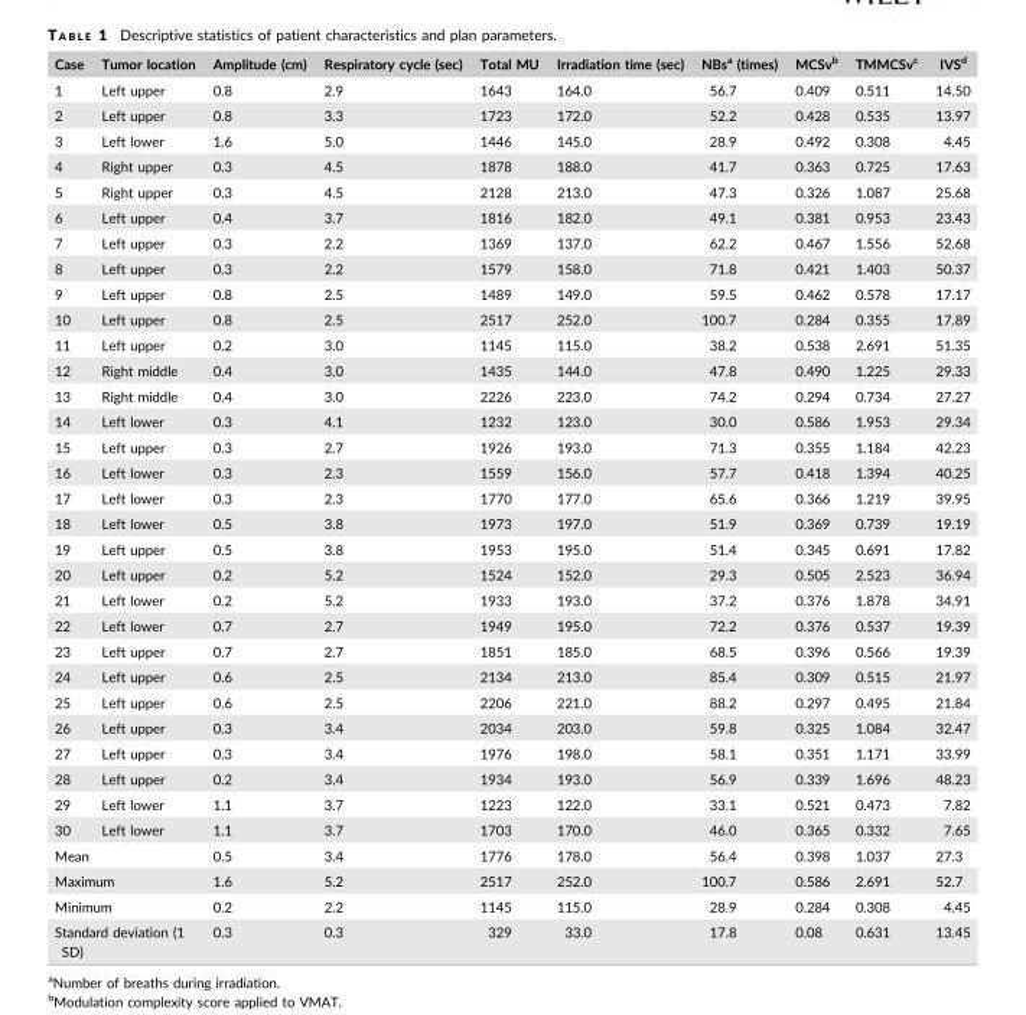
<table><thead><tr><td>Case</td><td>Tumor location</td><td>Amplitude (cm)</td><td>Respiratory cycle (sec)</td><td>Total MU</td><td>Irradiation time (sec)</td><td>NBs<sup>a</sup> (times)</td><td>MCSv<sup>b</sup></td><td>TMMCSv<sup>c</sup></td><td>IVS<sup>d</sup></td></tr></thead><tbody><tr><td>1</td><td>Left upper</td><td>0.8</td><td>2.9</td><td>1643</td><td>164.0</td><td>56.7</td><td>0.409</td><td>0.511</td><td>14.50</td></tr><tr><td>2</td><td>Left upper</td><td>0.8</td><td>3.3</td><td>1723</td><td>172.0</td><td>52.2</td><td>0.428</td><td>0.535</td><td>13.97</td></tr><tr><td>3</td><td>Left lower</td><td>1.6</td><td>5.0</td><td>1446</td><td>145.0</td><td>28.9</td><td>0.492</td><td>0.308</td><td>4.45</td></tr><tr><td>4</td><td>Right upper</td><td>0.3</td><td>4.5</td><td>1878</td><td>188.0</td><td>41.7</td><td>0.363</td><td>0.725</td><td>17.63</td></tr><tr><td>5</td><td>Right upper</td><td>0.3</td><td>4.5</td><td>2128</td><td>213.0</td><td>47.3</td><td>0.326</td><td>1.087</td><td>25.68</td></tr><tr><td>6</td><td>Left upper</td><td>0.4</td><td>3.7</td><td>1816</td><td>182.0</td><td>49.1</td><td>0.381</td><td>0.953</td><td>23.43</td></tr><tr><td>7</td><td>Left upper</td><td>0.3</td><td>2.2</td><td>1369</td><td>137.0</td><td>62.2</td><td>0.467</td><td>1.556</td><td>52.68</td></tr><tr><td>8</td><td>Left upper</td><td>0.3</td><td>2.2</td><td>1579</td><td>158.0</td><td>71.8</td><td>0.421</td><td>1.403</td><td>50.37</td></tr><tr><td>9</td><td>Left upper</td><td>0.8</td><td>2.5</td><td>1489</td><td>149.0</td><td>59.5</td><td>0.462</td><td>0.578</td><td>17.17</td></tr><tr><td>10</td><td>Left upper</td><td>0.8</td><td>2.5</td><td>2517</td><td>252.0</td><td>100.7</td><td>0.284</td><td>0.355</td><td>17.89</td></tr><tr><td>11</td><td>Left upper</td><td>0.2</td><td>3.0</td><td>1145</td><td>115.0</td><td>38.2</td><td>0.538</td><td>2.691</td><td>51.35</td></tr><tr><td>12</td><td>Right middle</td><td>0.4</td><td>3.0</td><td>1435</td><td>144.0</td><td>47.8</td><td>0.490</td><td>1.225</td><td>29.33</td></tr><tr><td>13</td><td>Right middle</td><td>0.4</td><td>3.0</td><td>2226</td><td>223.0</td><td>74.2</td><td>0.294</td><td>0.734</td><td>27.27</td></tr><tr><td>14</td><td>Left lower</td><td>0.3</td><td>4.1</td><td>1232</td><td>123.0</td><td>30.0</td><td>0.586</td><td>1.953</td><td>29.34</td></tr><tr><td>15</td><td>Left upper</td><td>0.3</td><td>2.7</td><td>1926</td><td>193.0</td><td>71.3</td><td>0.355</td><td>1.184</td><td>42.23</td></tr><tr><td>16</td><td>Left lower</td><td>0.3</td><td>2.3</td><td>1559</td><td>156.0</td><td>57.7</td><td>0.418</td><td>1.394</td><td>40.25</td></tr><tr><td>17</td><td>Left lower</td><td>0.3</td><td>2.3</td><td>1770</td><td>177.0</td><td>65.6</td><td>0.366</td><td>1.219</td><td>39.95</td></tr><tr><td>18</td><td>Left lower</td><td>0.5</td><td>3.8</td><td>1973</td><td>197.0</td><td>51.9</td><td>0.369</td><td>0.739</td><td>19.19</td></tr><tr><td>19</td><td>Left upper</td><td>0.5</td><td>3.8</td><td>1953</td><td>195.0</td><td>51.4</td><td>0.345</td><td>0.691</td><td>17.82</td></tr><tr><td>20</td><td>Left upper</td><td>0.2</td><td>5.2</td><td>1524</td><td>152.0</td><td>29.3</td><td>0.505</td><td>2.523</td><td>36.94</td></tr><tr><td>21</td><td>Left lower</td><td>0.2</td><td>5.2</td><td>1933</td><td>193.0</td><td>37.2</td><td>0.376</td><td>1.878</td><td>34.91</td></tr><tr><td>22</td><td>Left lower</td><td>0.7</td><td>2.7</td><td>1949</td><td>195.0</td><td>72.2</td><td>0.376</td><td>0.537</td><td>19.39</td></tr><tr><td>23</td><td>Left upper</td><td>0.7</td><td>2.7</td><td>1851</td><td>185.0</td><td>68.5</td><td>0.396</td><td>0.566</td><td>19.39</td></tr><tr><td>24</td><td>Left upper</td><td>0.6</td><td>2.5</td><td>2134</td><td>213.0</td><td>85.4</td><td>0.309</td><td>0.515</td><td>21.97</td></tr><tr><td>25</td><td>Left upper</td><td>0.6</td><td>2.5</td><td>2206</td><td>221.0</td><td>88.2</td><td>0.297</td><td>0.495</td><td>21.84</td></tr><tr><td>26</td><td>Left upper</td><td>0.3</td><td>3.4</td><td>2034</td><td>203.0</td><td>59.8</td><td>0.325</td><td>1.084</td><td>32.47</td></tr><tr><td>27</td><td>Left upper</td><td>0.3</td><td>3.4</td><td>1976</td><td>198.0</td><td>58.1</td><td>0.351</td><td>1.171</td><td>33.99</td></tr><tr><td>28</td><td>Left upper</td><td>0.2</td><td>3.4</td><td>1934</td><td>193.0</td><td>56.9</td><td>0.339</td><td>1.696</td><td>48.23</td></tr><tr><td>29</td><td>Left lower</td><td>1.1</td><td>3.7</td><td>1223</td><td>122.0</td><td>33.1</td><td>0.521</td><td>0.473</td><td>7.82</td></tr><tr><td>30</td><td>Left lower</td><td>1.1</td><td>3.7</td><td>1703</td><td>170.0</td><td>46.0</td><td>0.365</td><td>0.332</td><td>7.65</td></tr><tr><td colspan="2">Mean</td><td>0.5</td><td>3.4</td><td>1776</td><td>178.0</td><td>56.4</td><td>0.398</td><td>1.037</td><td>27.3</td></tr><tr><td colspan="2">Maximum</td><td>1.6</td><td>5.2</td><td>2517</td><td>252.0</td><td>100.7</td><td>0.586</td><td>2.691</td><td>52.7</td></tr><tr><td colspan="2">Minimum</td><td>0.2</td><td>2.2</td><td>1145</td><td>115.0</td><td>28.9</td><td>0.284</td><td>0.308</td><td>4.45</td></tr><tr><td colspan="2">Standard deviation (1 SD)</td><td>0.3</td><td>0.3</td><td>329</td><td>33.0</td><td>17.8</td><td>0.08</td><td>0.631</td><td>13.45</td></tr></tbody></table>